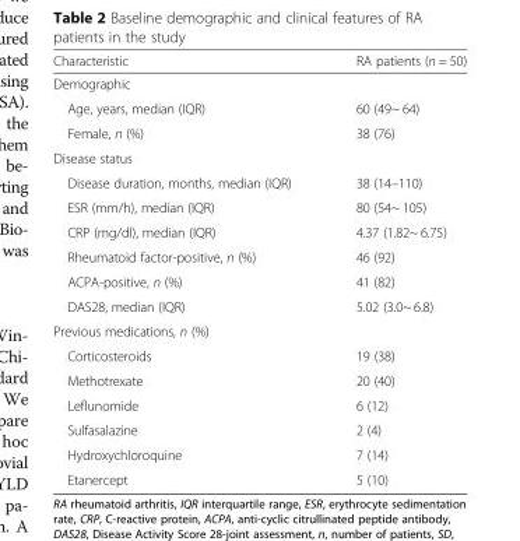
<table><thead><tr><td>Characteristic</td><td>RA patients (n = 50)</td></tr></thead><tbody><tr><td colspan="2">Demographic</td></tr><tr><td>Age, years, median (IQR)</td><td>60 (49~ 64)</td></tr><tr><td>Female, n (%)</td><td>38 (76)</td></tr><tr><td colspan="2">Disease status</td></tr><tr><td>Disease duration, months, median (IQR)</td><td>38 (14–110)</td></tr><tr><td>ESR (mm/h), median (IQR)</td><td>80 (54~ 105)</td></tr><tr><td>CRP (mg/dl), median (IQR)</td><td>4.37 (1.82~ 6.75)</td></tr><tr><td>Rheumatoid factor-positive, n (%)</td><td>46 (92)</td></tr><tr><td>ACPA-positive, n (%)</td><td>41 (82)</td></tr><tr><td>DAS28, median (IQR)</td><td>5.02 (3.0~ 6.8)</td></tr><tr><td colspan="2">Previous medications, n (%)</td></tr><tr><td>Corticosteroids</td><td>19 (38)</td></tr><tr><td>Methotrexate</td><td>20 (40)</td></tr><tr><td>Leflunomide</td><td>6 (12)</td></tr><tr><td>Sulfasalazine</td><td>2 (4)</td></tr><tr><td>Hydroxychloroquine</td><td>7 (14)</td></tr><tr><td>Etanercept</td><td>5 (10)</td></tr></tbody></table>